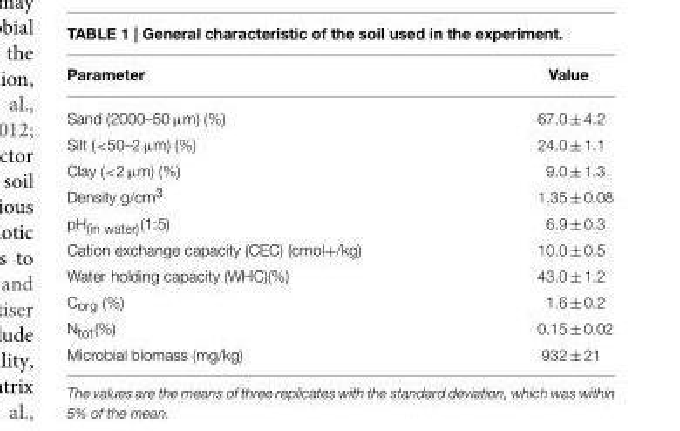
<table><thead><tr><td>Parameter</td><td>Value</td></tr></thead><tbody><tr><td>Sand (2000–50 µm) (%)</td><td>67.0 ± 4.2</td></tr><tr><td>Silt (&lt;50–2 µm) (%)</td><td>24.0 ± 1.1</td></tr><tr><td>Clay (&lt;2 µm) (%)</td><td>9.0 ± 1.3</td></tr><tr><td>Density g/cm<sup>3</sup></td><td>1.35 ± 0.08</td></tr><tr><td>pH(in water)(1:5)</td><td>6.9 ± 0.3</td></tr><tr><td>Cation exchange capacity (CEC) (cmol+/kg)</td><td>10.0 ± 0.5</td></tr><tr><td>Water holding capacity (WHC)(%)</td><td>43.0 ± 1.2</td></tr><tr><td>Corg (%)</td><td>1.6 ± 0.2</td></tr><tr><td>Ntot(%)</td><td>0.15 ± 0.02</td></tr><tr><td>Microbial biomass (mg/kg)</td><td>932 ± 21</td></tr></tbody></table>